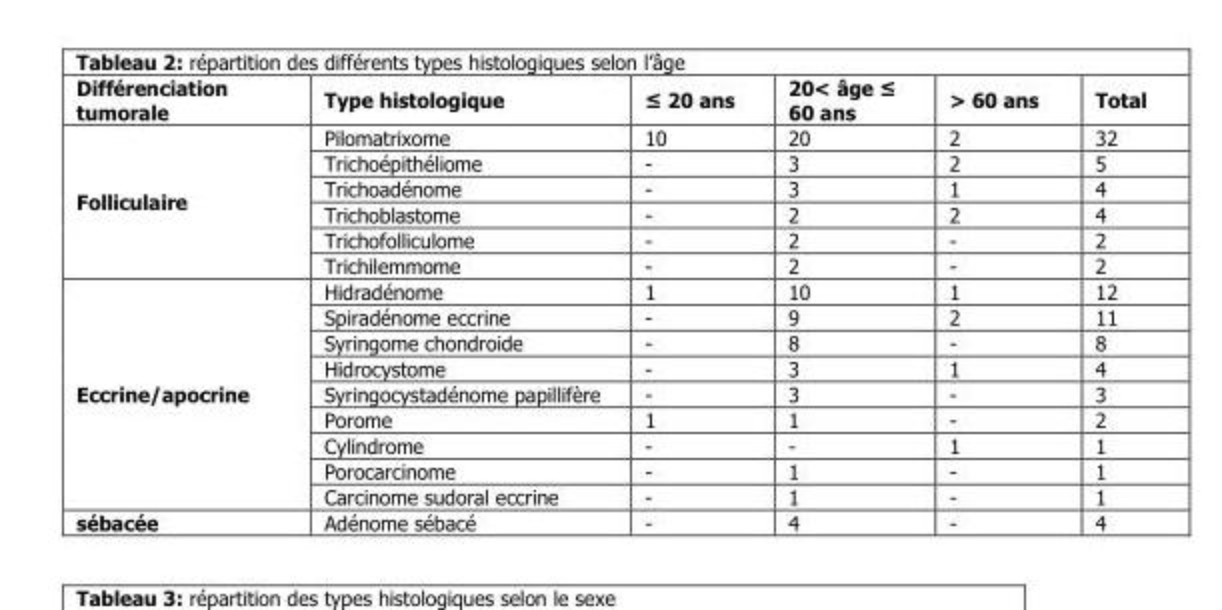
<table><thead><tr><td>Différenciation tumorale</td><td>Type histologique</td><td>≤ 20 ans</td><td>20˂ âge ≤ 60 ans</td><td>˃ 60 ans</td><td>Total</td></tr></thead><tbody><tr><td rowspan="6">Folliculaire</td><td>Pilomatrixome</td><td>10</td><td>20</td><td>2</td><td>32</td></tr><tr><td>Trichoépithéliome</td><td>-</td><td>3</td><td>2</td><td>5</td></tr><tr><td>Trichoadénome</td><td>-</td><td>3</td><td>1</td><td>4</td></tr><tr><td>Trichoblastome</td><td>-</td><td>2</td><td>2</td><td>4</td></tr><tr><td>Trichofolliculome</td><td>-</td><td>2</td><td>-</td><td>2</td></tr><tr><td>Trichilemmome</td><td>-</td><td>2</td><td>-</td><td>2</td></tr><tr><td rowspan="9">Eccrine/apocrine</td><td>Hidradénome</td><td>1</td><td>10</td><td>1</td><td>12</td></tr><tr><td>Spiradénome eccrine</td><td>-</td><td>9</td><td>2</td><td>11</td></tr><tr><td>Syringome chondroide</td><td>-</td><td>8</td><td>-</td><td>8</td></tr><tr><td>Hidrocystome</td><td>-</td><td>3</td><td>1</td><td>4</td></tr><tr><td>Syringocystadénome papillifère</td><td>-</td><td>3</td><td>-</td><td>3</td></tr><tr><td>Porome</td><td>1</td><td>1</td><td>-</td><td>2</td></tr><tr><td>Cylindrome</td><td>-</td><td>-</td><td>1</td><td>1</td></tr><tr><td>Porocarcinome</td><td>-</td><td>1</td><td>-</td><td>1</td></tr><tr><td>Carcinome sudoral eccrine</td><td>-</td><td>1</td><td>-</td><td>1</td></tr><tr><td>sébacée</td><td>Adénome sébacé</td><td>-</td><td>4</td><td>-</td><td>4</td></tr></tbody></table>